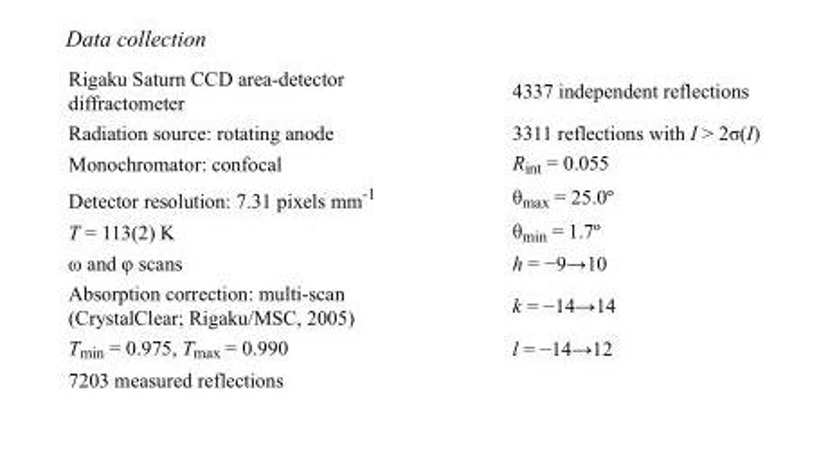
<table><tbody><tr><td>Rigaku Saturn CCD area-detector diffractometer</td><td>4337 independent reflections</td></tr><tr><td>Radiation source: rotating anode</td><td>3311 reflections with I &gt; 2σ(I)</td></tr><tr><td>Monochromator: confocal</td><td>R<sub>int</sub> = 0.055</td></tr><tr><td>Detector resolution: 7.31 pixels mm<sup>-1</sup></td><td>θ<sub>max</sub> = 25.0º</td></tr><tr><td>T = 113(2) K</td><td>θ<sub>min</sub> = 1.7º</td></tr><tr><td>ω and φ scans</td><td>h = −9→10</td></tr><tr><td>Absorption correction: multi-scan (CrystalClear; Rigaku/MSC, 2005)</td><td>k = −14→14</td></tr><tr><td>T<sub>min</sub> = 0.975, T<sub>max</sub> = 0.990</td><td>l = −14→12</td></tr><tr><td>7203 measured reflections</td><td></td></tr></tbody></table>